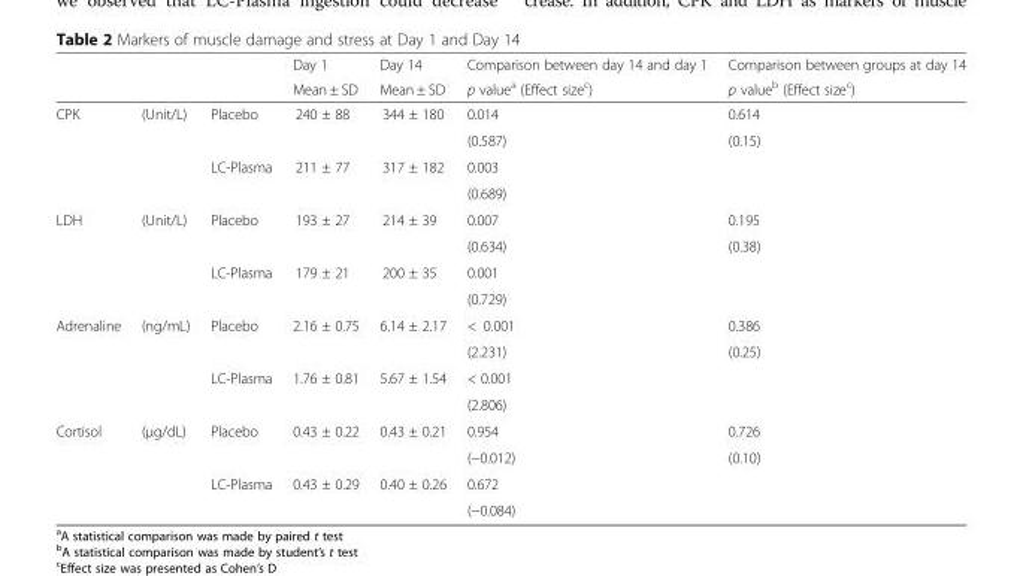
<table><thead><tr><td rowspan="2"></td><td rowspan="2"></td><td rowspan="2"></td><td rowspan="2">Day 1 Mean ± SD</td><td rowspan="2">Day 14 Mean ± SD</td><td rowspan="2">Comparison between day 14 and day 1 p value<sup>a</sup> (Effect size<sup>c</sup>)</td><td rowspan="2">Comparison between groups at day 14 p value<sup>b</sup> (Effect size<sup>c</sup>)</td></tr><tr></tr></thead><tbody><tr><td rowspan="4">CPK</td><td>(Unit/L)</td><td>Placebo</td><td>240 ± 88</td><td>344 ± 180</td><td>0.014</td><td>0.614</td></tr><tr><td></td><td></td><td></td><td></td><td>(0.587)</td><td>(0.15)</td></tr><tr><td></td><td>LC-Plasma</td><td>211 ± 77</td><td>317 ± 182</td><td>0.003</td><td></td></tr><tr><td></td><td></td><td></td><td></td><td>(0.689)</td><td></td></tr><tr><td rowspan="4">LDH</td><td>(Unit/L)</td><td>Placebo</td><td>193 ± 27</td><td>214 ± 39</td><td>0.007</td><td>0.195</td></tr><tr><td></td><td></td><td></td><td></td><td>(0.634)</td><td>(0.38)</td></tr><tr><td></td><td>LC-Plasma</td><td>179 ± 21</td><td>200 ± 35</td><td>0.001</td><td></td></tr><tr><td></td><td></td><td></td><td></td><td>(0.729)</td><td></td></tr><tr><td rowspan="4">Adrenaline</td><td>(ng/mL)</td><td>Placebo</td><td>2.16 ± 0.75</td><td>6.14 ± 2.17</td><td>&lt; 0.001</td><td>0.386</td></tr><tr><td></td><td></td><td></td><td></td><td>(2.231)</td><td>(0.25)</td></tr><tr><td></td><td>LC-Plasma</td><td>1.76 ± 0.81</td><td>5.67 ± 1.54</td><td>&lt; 0.001</td><td></td></tr><tr><td></td><td></td><td></td><td></td><td>(2.806)</td><td></td></tr><tr><td rowspan="4">Cortisol</td><td>(μg/dL)</td><td>Placebo</td><td>0.43 ± 0.22</td><td>0.43 ± 0.21</td><td>0.954</td><td>0.726</td></tr><tr><td></td><td></td><td></td><td></td><td>(−0.012)</td><td>(0.10)</td></tr><tr><td></td><td>LC-Plasma</td><td>0.43 ± 0.29</td><td>0.40 ± 0.26</td><td>0.672</td><td></td></tr><tr><td></td><td></td><td></td><td></td><td>(−0.084)</td><td></td></tr></tbody></table>